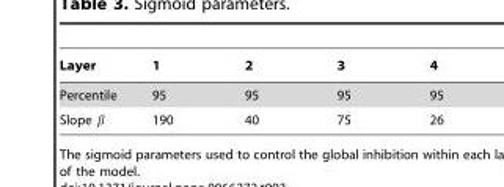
<table><thead><tr><td>Layer</td><td>1</td><td>2</td><td>3</td><td>4</td></tr></thead><tbody><tr><td>Percentile</td><td>95</td><td>95</td><td>95</td><td>95</td></tr><tr><td>Slope b</td><td>190</td><td>40</td><td>75</td><td>26</td></tr></tbody></table>